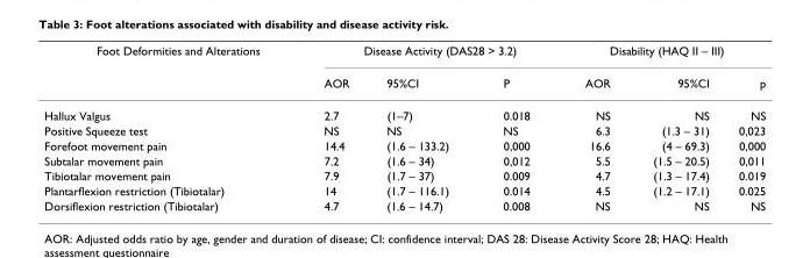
<table><thead><tr><td rowspan="2">Foot Deformities and Alterations</td><td colspan="3">Disease Activity (DAS28 &gt; 3.2)</td><td colspan="3">Disability (HAQ II – III)</td></tr><tr><td>AOR</td><td>95%CI</td><td>P</td><td>AOR</td><td>95%CI</td><td>p</td></tr></thead><tbody><tr><td>Hallux Valgus</td><td>2.7</td><td>(1–7)</td><td>0.018</td><td>NS</td><td>NS</td><td>NS</td></tr><tr><td>Positive Squeeze test</td><td>NS</td><td>NS</td><td>NS</td><td>6.3</td><td>(1.3 – 31)</td><td>0,023</td></tr><tr><td>Forefoot movement pain</td><td>14.4</td><td>(1.6 – 133.2)</td><td>0,000</td><td>16.6</td><td>(4 – 69.3)</td><td>0,000</td></tr><tr><td>Subtalar movement pain</td><td>7.2</td><td>(1.6 – 34)</td><td>0,012</td><td>5.5</td><td>(1.5 – 20.5)</td><td>0,011</td></tr><tr><td>Tibiotalar movement pain</td><td>7.9</td><td>(1.7 – 37)</td><td>0.009</td><td>4.7</td><td>(1.3 – 17.4)</td><td>0.019</td></tr><tr><td>Plantarflexion restriction (Tibiotalar)</td><td>14</td><td>(1.7 – 116.1)</td><td>0.014</td><td>4.5</td><td>(1.2 – 17.1)</td><td>0.025</td></tr><tr><td>Dorsiflexion restriction (Tibiotalar)</td><td>4.7</td><td>(1.6 – 14.7)</td><td>0.008</td><td>NS</td><td>NS</td><td>NS</td></tr></tbody></table>